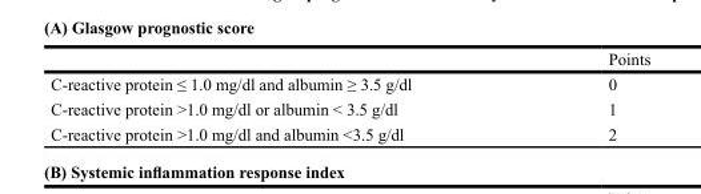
<table><thead><tr><td></td><td>Points</td></tr></thead><tbody><tr><td>C-reactive protein ≤ 1.0 mg/dl and albumin ≥ 3.5 g/dl</td><td>0</td></tr><tr><td>C-reactive protein &gt;1.0 mg/dl or albumin &lt; 3.5 g/dl</td><td>1</td></tr><tr><td>C-reactive protein &gt;1.0 mg/dl and albumin &lt;3.5 g/dl</td><td>2</td></tr></tbody></table>